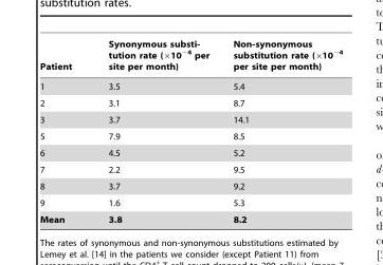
<table><thead><tr><td>Patient</td><td>Synonymous substi- tution rate (61024 per site per month)</td><td>Non-synonymous substitution rate (×10<sup>−4</sup> per site per month)</td></tr></thead><tbody><tr><td>1</td><td>3.5</td><td>5.4</td></tr><tr><td>2</td><td>3.1</td><td>8.7</td></tr><tr><td>3</td><td>3.7</td><td>14.1</td></tr><tr><td>5</td><td>7.9</td><td>8.5</td></tr><tr><td>6</td><td>4.5</td><td>5.2</td></tr><tr><td>7</td><td>2.2</td><td>9.5</td></tr><tr><td>8</td><td>3.7</td><td>9.2</td></tr><tr><td>9</td><td>1.6</td><td>5.3</td></tr><tr><td>Mean</td><td>3.8</td><td>8.2</td></tr></tbody></table>